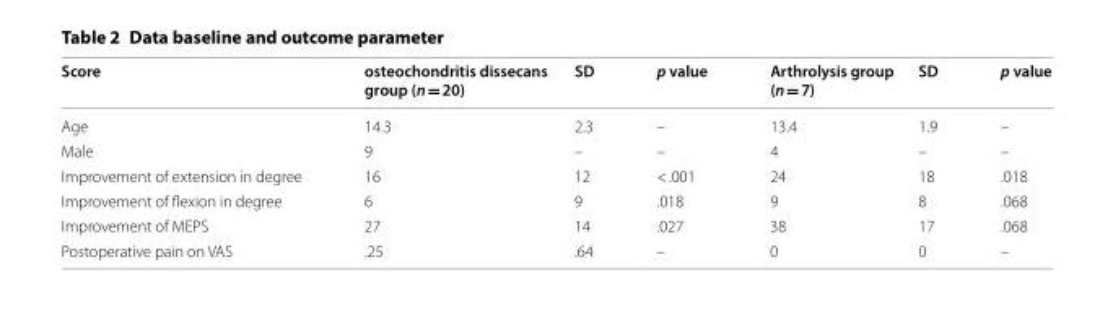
<table><thead><tr><td>Score</td><td>osteochondritis dissecans group (n = 20)</td><td>SD</td><td>p value</td><td>Arthrolysis group (n = 7)</td><td>SD</td><td>p value</td></tr></thead><tbody><tr><td>Age</td><td>14.3</td><td>2.3</td><td>–</td><td>13.4</td><td>1.9</td><td>–</td></tr><tr><td>Male</td><td>9</td><td>–</td><td>–</td><td>4</td><td>–</td><td>–</td></tr><tr><td>Improvement of extension in degree</td><td>16</td><td>12</td><td>&lt; .001</td><td>24</td><td>18</td><td>.018</td></tr><tr><td>Improvement of flexion in degree</td><td>6</td><td>9</td><td>.018</td><td>9</td><td>8</td><td>.068</td></tr><tr><td>Improvement of MEPS</td><td>27</td><td>14</td><td>.027</td><td>38</td><td>17</td><td>.068</td></tr><tr><td>Postoperative pain on VAS</td><td>.25</td><td>.64</td><td>–</td><td>0</td><td>0</td><td>–</td></tr></tbody></table>